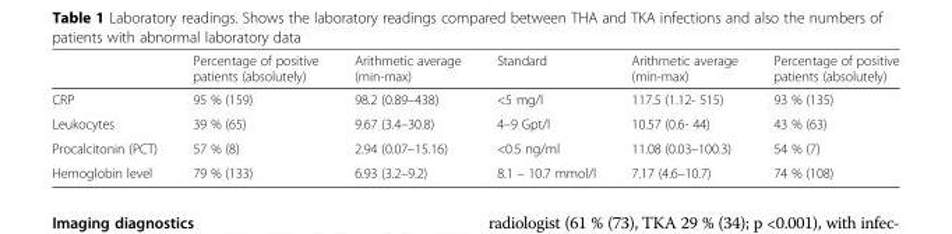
<table><thead><tr><td></td><td>Percentage of positive patients (absolutely)</td><td>Arithmetic average (min-max)</td><td>Standard</td><td>Arithmetic average (min-max)</td><td>Percentage of positive patients (absolutely)</td></tr></thead><tbody><tr><td>CRP</td><td>95 % (159)</td><td>98.2 (0.89–438)</td><td>&lt;5 mg/l</td><td>117.5 (1.12- 515)</td><td>93 % (135)</td></tr><tr><td>Leukocytes</td><td>39 % (65)</td><td>9.67 (3.4–30.8)</td><td>4–9 Gpt/l</td><td>10.57 (0.6- 44)</td><td>43 % (63)</td></tr><tr><td>Procalcitonin (PCT)</td><td>57 % (8)</td><td>2.94 (0.07–15.16)</td><td>&lt;0.5 ng/ml</td><td>11.08 (0.03–100.3)</td><td>54 % (7)</td></tr><tr><td>Hemoglobin level</td><td>79 % (133)</td><td>6.93 (3.2–9.2)</td><td>8.1 – 10.7 mmol/l</td><td>7.17 (4.6–10.7)</td><td>74 % (108)</td></tr></tbody></table>